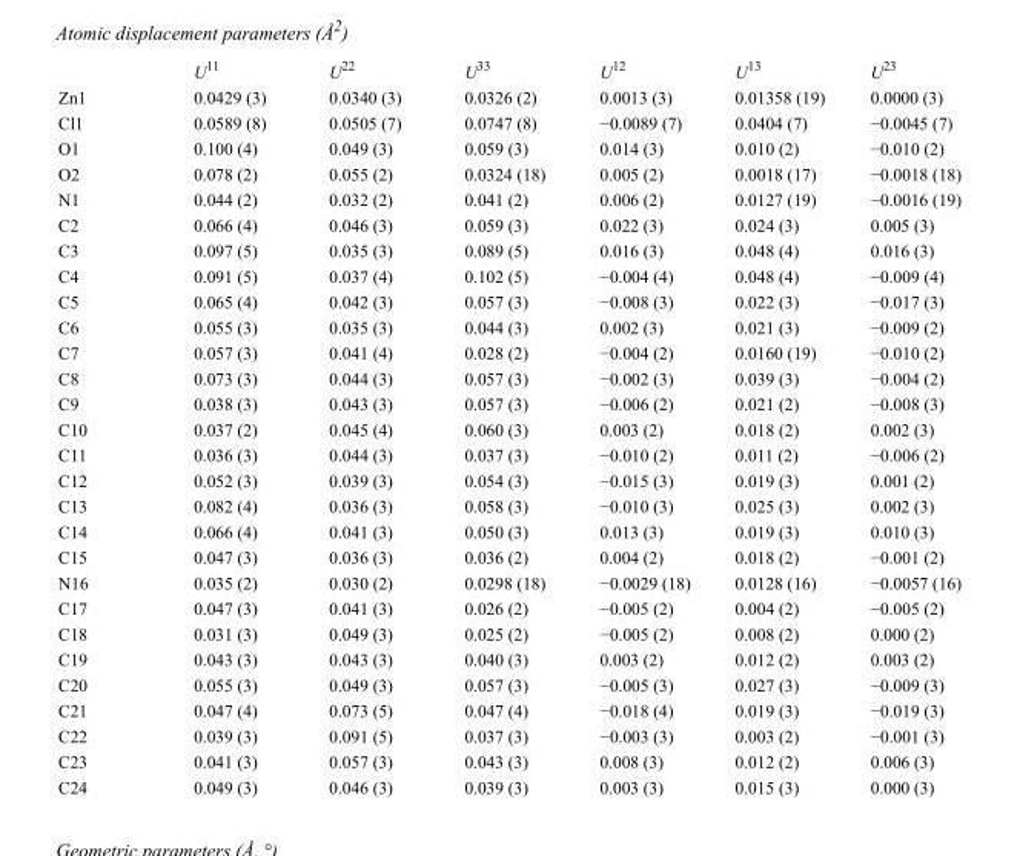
<table><thead><tr><td></td><td>U<sup>11</sup></td><td>U<sup>22</sup></td><td>U<sup>33</sup></td><td>U<sup>12</sup></td><td>U<sup>13</sup></td><td>U<sup>23</sup></td></tr></thead><tbody><tr><td>Zn1</td><td>0.0429 (3)</td><td>0.0340 (3)</td><td>0.0326 (2)</td><td>0.0013 (3)</td><td>0.01358 (19)</td><td>0.0000 (3)</td></tr><tr><td>Cl1</td><td>0.0589 (8)</td><td>0.0505 (7)</td><td>0.0747 (8)</td><td>−0.0089 (7)</td><td>0.0404 (7)</td><td>−0.0045 (7)</td></tr><tr><td>O1</td><td>0.100 (4)</td><td>0.049 (3)</td><td>0.059 (3)</td><td>0.014 (3)</td><td>0.010 (2)</td><td>−0.010 (2)</td></tr><tr><td>O2</td><td>0.078 (2)</td><td>0.055 (2)</td><td>0.0324 (18)</td><td>0.005 (2)</td><td>0.0018 (17)</td><td>−0.0018 (18)</td></tr><tr><td>N1</td><td>0.044 (2)</td><td>0.032 (2)</td><td>0.041 (2)</td><td>0.006 (2)</td><td>0.0127 (19)</td><td>−0.0016 (19)</td></tr><tr><td>C2</td><td>0.066 (4)</td><td>0.046 (3)</td><td>0.059 (3)</td><td>0.022 (3)</td><td>0.024 (3)</td><td>0.005 (3)</td></tr><tr><td>C3</td><td>0.097 (5)</td><td>0.035 (3)</td><td>0.089 (5)</td><td>0.016 (3)</td><td>0.048 (4)</td><td>0.016 (3)</td></tr><tr><td>C4</td><td>0.091 (5)</td><td>0.037 (4)</td><td>0.102 (5)</td><td>−0.004 (4)</td><td>0.048 (4)</td><td>−0.009 (4)</td></tr><tr><td>C5</td><td>0.065 (4)</td><td>0.042 (3)</td><td>0.057 (3)</td><td>−0.008 (3)</td><td>0.022 (3)</td><td>−0.017 (3)</td></tr><tr><td>C6</td><td>0.055 (3)</td><td>0.035 (3)</td><td>0.044 (3)</td><td>0.002 (3)</td><td>0.021 (3)</td><td>−0.009 (2)</td></tr><tr><td>C7</td><td>0.057 (3)</td><td>0.041 (4)</td><td>0.028 (2)</td><td>−0.004 (2)</td><td>0.0160 (19)</td><td>−0.010 (2)</td></tr><tr><td>C8</td><td>0.073 (3)</td><td>0.044 (3)</td><td>0.057 (3)</td><td>−0.002 (3)</td><td>0.039 (3)</td><td>−0.004 (2)</td></tr><tr><td>C9</td><td>0.038 (3)</td><td>0.043 (3)</td><td>0.057 (3)</td><td>−0.006 (2)</td><td>0.021 (2)</td><td>−0.008 (3)</td></tr><tr><td>C10</td><td>0.037 (2)</td><td>0.045 (4)</td><td>0.060 (3)</td><td>0.003 (2)</td><td>0.018 (2)</td><td>0.002 (3)</td></tr><tr><td>C11</td><td>0.036 (3)</td><td>0.044 (3)</td><td>0.037 (3)</td><td>−0.010 (2)</td><td>0.011 (2)</td><td>−0.006 (2)</td></tr><tr><td>C12</td><td>0.052 (3)</td><td>0.039 (3)</td><td>0.054 (3)</td><td>−0.015 (3)</td><td>0.019 (3)</td><td>0.001 (2)</td></tr><tr><td>C13</td><td>0.082 (4)</td><td>0.036 (3)</td><td>0.058 (3)</td><td>−0.010 (3)</td><td>0.025 (3)</td><td>0.002 (3)</td></tr><tr><td>C14</td><td>0.066 (4)</td><td>0.041 (3)</td><td>0.050 (3)</td><td>0.013 (3)</td><td>0.019 (3)</td><td>0.010 (3)</td></tr><tr><td>C15</td><td>0.047 (3)</td><td>0.036 (3)</td><td>0.036 (2)</td><td>0.004 (2)</td><td>0.018 (2)</td><td>−0.001 (2)</td></tr><tr><td>N16</td><td>0.035 (2)</td><td>0.030 (2)</td><td>0.0298 (18)</td><td>−0.0029 (18)</td><td>0.0128 (16)</td><td>−0.0057 (16)</td></tr><tr><td>C17</td><td>0.047 (3)</td><td>0.041 (3)</td><td>0.026 (2)</td><td>−0.005 (2)</td><td>0.004 (2)</td><td>−0.005 (2)</td></tr><tr><td>C18</td><td>0.031 (3)</td><td>0.049 (3)</td><td>0.025 (2)</td><td>−0.005 (2)</td><td>0.008 (2)</td><td>0.000 (2)</td></tr><tr><td>C19</td><td>0.043 (3)</td><td>0.043 (3)</td><td>0.040 (3)</td><td>0.003 (2)</td><td>0.012 (2)</td><td>0.003 (2)</td></tr><tr><td>C20</td><td>0.055 (3)</td><td>0.049 (3)</td><td>0.057 (3)</td><td>−0.005 (3)</td><td>0.027 (3)</td><td>−0.009 (3)</td></tr><tr><td>C21</td><td>0.047 (4)</td><td>0.073 (5)</td><td>0.047 (4)</td><td>−0.018 (4)</td><td>0.019 (3)</td><td>−0.019 (3)</td></tr><tr><td>C22</td><td>0.039 (3)</td><td>0.091 (5)</td><td>0.037 (3)</td><td>−0.003 (3)</td><td>0.003 (2)</td><td>−0.001 (3)</td></tr><tr><td>C23</td><td>0.041 (3)</td><td>0.057 (3)</td><td>0.043 (3)</td><td>0.008 (3)</td><td>0.012 (2)</td><td>0.006 (3)</td></tr><tr><td>C24</td><td>0.049 (3)</td><td>0.046 (3)</td><td>0.039 (3)</td><td>0.003 (3)</td><td>0.015 (3)</td><td>0.000 (3)</td></tr></tbody></table>